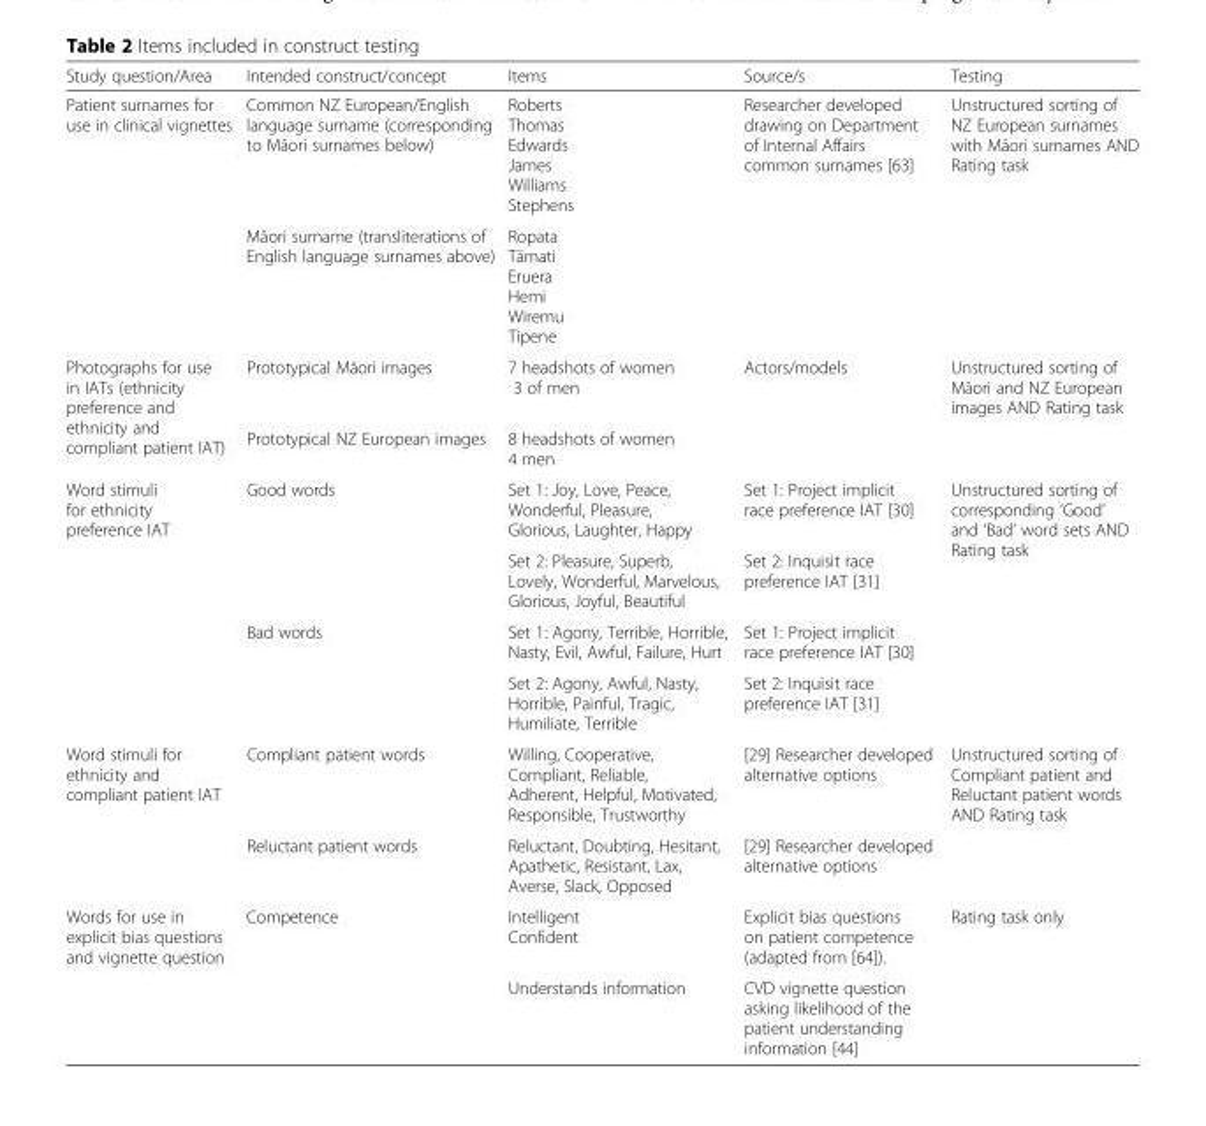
<table><thead><tr><td>Study question/Area</td><td>Intended construct/concept</td><td>Items</td><td>Source/s</td><td>Testing</td></tr></thead><tbody><tr><td rowspan="2">Patient surnames for use in clinical vignettes</td><td>Common NZ European/English language surname (corresponding to Māori surnames below)</td><td>Roberts Thomas Edwards James Williams Stephens</td><td rowspan="2">Researcher developed drawing on Department of Internal Affairs common surnames [63]</td><td rowspan="2">Unstructured sorting of NZ European surnames with Māori surnames AND Rating task</td></tr><tr><td>Māori surname (transliterations of English language surnames above)</td><td>Ropata Tāmati Eruera Hemi Wiremu Tipene</td></tr><tr><td rowspan="2">Photographs for use in IATs (ethnicity preference and ethnicity and compliant patient IAT)</td><td>Prototypical Māori images</td><td>7 headshots of women 3 of men</td><td>Actors/models</td><td>Unstructured sorting of Māori and NZ European images AND Rating task</td></tr><tr><td>Prototypical NZ European images</td><td>8 headshots of women 4 men</td><td></td><td></td></tr><tr><td rowspan="4">Word stimuli for ethnicity preference IAT</td><td rowspan="2">Good words</td><td>Set 1: Joy, Love, Peace, Wonderful, Pleasure, Glorious, Laughter, Happy</td><td>Set 1: Project implicit race preference IAT [30]</td><td rowspan="2">Unstructured sorting of corresponding ‘Good’ and ‘Bad’ word sets AND Rating task</td></tr><tr><td>Set 2: Pleasure, Superb, Lovely, Wonderful, Marvelous, Glorious, Joyful, Beautiful</td><td>Set 2: Inquisit race preference IAT [31]</td></tr><tr><td rowspan="2">Bad words</td><td>Set 1: Agony, Terrible, Horrible, Nasty, Evil, Awful, Failure, Hurt</td><td>Set 1: Project implicit race preference IAT [30]</td><td rowspan="2"></td></tr><tr><td>Set 2: Agony, Awful, Nasty, Horrible, Painful, Tragic, Humiliate, Terrible</td><td>Set 2: Inquisit race preference IAT [31]</td></tr><tr><td rowspan="2">Word stimuli for ethnicity and compliant patient IAT</td><td>Compliant patient words</td><td>Willing, Cooperative, Compliant, Reliable, Adherent, Helpful, Motivated, Responsible, Trustworthy</td><td>[29] Researcher developed alternative options</td><td>Unstructured sorting of Compliant patient and Reluctant patient words AND Rating task</td></tr><tr><td>Reluctant patient words</td><td>Reluctant, Doubting, Hesitant, Apathetic, Resistant, Lax, Averse, Slack, Opposed</td><td>[29] Researcher developed alternative options</td><td></td></tr><tr><td rowspan="2">Words for use in explicit bias questions and vignette question</td><td rowspan="2">Competence</td><td>Intelligent Confident</td><td>Explicit bias questions on patient competence (adapted from [64]).</td><td rowspan="2">Rating task only</td></tr><tr><td>Understands information</td><td>CVD vignette question asking likelihood of the patient understanding information [44]</td></tr></tbody></table>